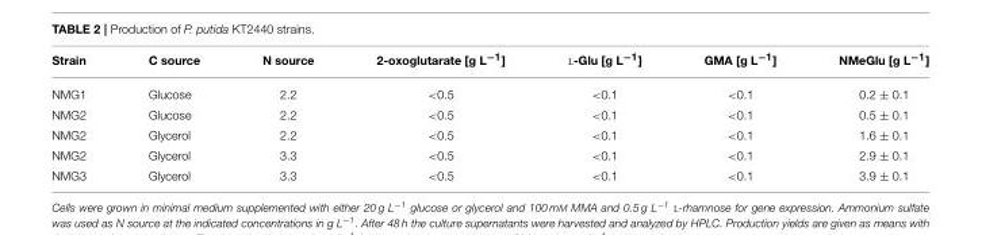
<table><thead><tr><td>Strain</td><td>C source</td><td>N source</td><td>2-oxoglutarate [g L<sup>−1</sup>]</td><td>L-Glu [g L<sup>−1</sup>]</td><td>GMA [g L<sup>−1</sup>]</td><td>NMeGlu [g L<sup>−1</sup>]</td></tr></thead><tbody><tr><td>NMG1</td><td>Glucose</td><td>2.2</td><td>&lt;0.5</td><td>&lt;0.1</td><td>&lt;0.1</td><td>0.2 ± 0.1</td></tr><tr><td>NMG2</td><td>Glucose</td><td>2.2</td><td>&lt;0.5</td><td>&lt;0.1</td><td>&lt;0.1</td><td>0.5 ± 0.1</td></tr><tr><td>NMG2</td><td>Glycerol</td><td>2.2</td><td>&lt;0.5</td><td>&lt;0.1</td><td>&lt;0.1</td><td>1.6 ± 0.1</td></tr><tr><td>NMG2</td><td>Glycerol</td><td>3.3</td><td>&lt;0.5</td><td>&lt;0.1</td><td>&lt;0.1</td><td>2.9 ± 0.1</td></tr><tr><td>NMG3</td><td>Glycerol</td><td>3.3</td><td>&lt;0.5</td><td>&lt;0.1</td><td>&lt;0.1</td><td>3.9 ± 0.1</td></tr></tbody></table>